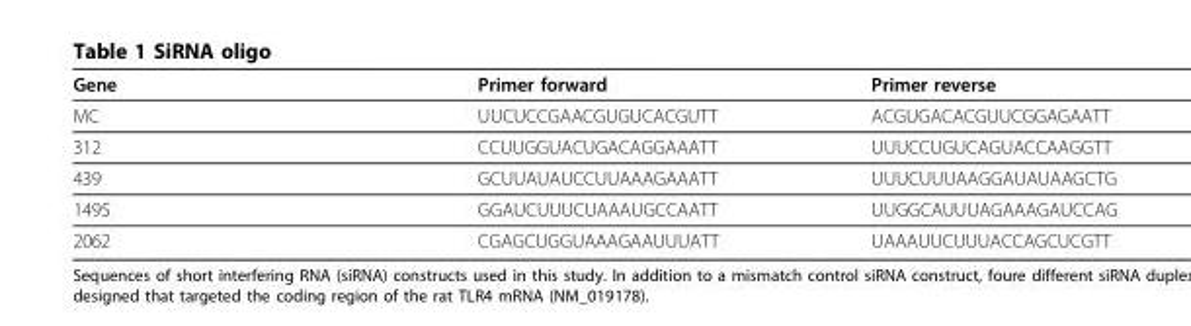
<table><thead><tr><td>Gene</td><td>Primer forward</td><td>Primer reverse</td></tr></thead><tbody><tr><td>MC</td><td>UUCUCCGAACGUGUCACGUTT</td><td>ACGUGACACGUUCGGAGAATT</td></tr><tr><td>312</td><td>CCUUGGUACUGACAGGAAATT</td><td>UUUCCUGUCAGUACCAAGGTT</td></tr><tr><td>439</td><td>GCUUAUAUCCUUAAAGAAATT</td><td>UUUCUUUAAGGAUAUAAGCTG</td></tr><tr><td>1495</td><td>GGAUCUUUCUAAAUGCCAATT</td><td>UUGGCAUUUAGAAAGAUCCAG</td></tr><tr><td>2062</td><td>CGAGCUGGUAAAGAAUUUATT</td><td>UAAAUUCUUUACCAGCUCGTT</td></tr></tbody></table>